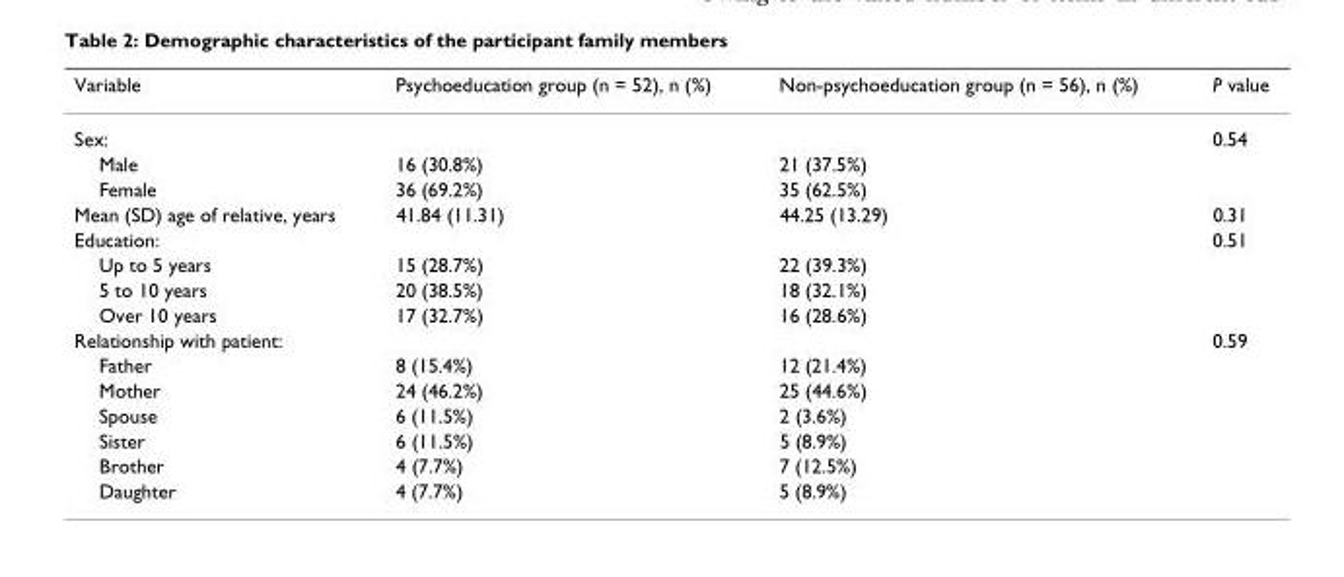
<table><thead><tr><td>Variable</td><td>Psychoeducation group (n = 52), n (%)</td><td>Non-psychoeducation group (n = 56), n (%)</td><td>P value</td></tr></thead><tbody><tr><td>Sex:</td><td></td><td></td><td>0.54</td></tr><tr><td>Male</td><td>16 (30.8%)</td><td>21 (37.5%)</td><td></td></tr><tr><td>Female</td><td>36 (69.2%)</td><td>35 (62.5%)</td><td></td></tr><tr><td>Mean (SD) age of relative, years</td><td>41.84 (11.31)</td><td>44.25 (13.29)</td><td>0.31</td></tr><tr><td>Education:</td><td></td><td></td><td>0.51</td></tr><tr><td>Up to 5 years</td><td>15 (28.7%)</td><td>22 (39.3%)</td><td></td></tr><tr><td>5 to 10 years</td><td>20 (38.5%)</td><td>18 (32.1%)</td><td></td></tr><tr><td>Over 10 years</td><td>17 (32.7%)</td><td>16 (28.6%)</td><td></td></tr><tr><td>Relationship with patient:</td><td></td><td></td><td>0.59</td></tr><tr><td>Father</td><td>8 (15.4%)</td><td>12 (21.4%)</td><td></td></tr><tr><td>Mother</td><td>24 (46.2%)</td><td>25 (44.6%)</td><td></td></tr><tr><td>Spouse</td><td>6 (11.5%)</td><td>2 (3.6%)</td><td></td></tr><tr><td>Sister</td><td>6 (11.5%)</td><td>5 (8.9%)</td><td></td></tr><tr><td>Brother</td><td>4 (7.7%)</td><td>7 (12.5%)</td><td></td></tr><tr><td>Daughter</td><td>4 (7.7%)</td><td>5 (8.9%)</td><td></td></tr></tbody></table>